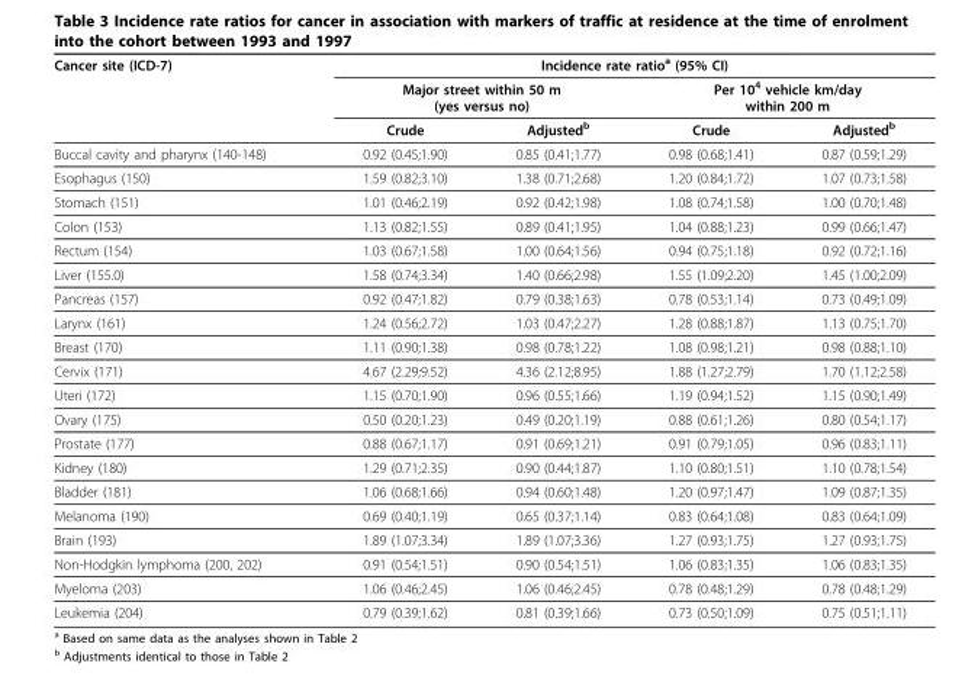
<table><thead><tr><td rowspan="3">Cancer site (ICD-7)</td><td colspan="4">Incidence rate ratio<sup>a</sup> (95% CI)</td></tr><tr><td colspan="2">Major street within 50 m (yes versus no)</td><td colspan="2">Per 10<sup>4</sup> vehicle km/day within 200 m</td></tr><tr><td>Crude</td><td>Adjusted<sup>b</sup></td><td>Crude</td><td>Adjusted<sup>b</sup></td></tr></thead><tbody><tr><td>Buccal cavity and pharynx (140-148)</td><td>0.92 (0.45;1.90)</td><td>0.85 (0.41;1.77)</td><td>0.98 (0.68;1.41)</td><td>0.87 (0.59;1.29)</td></tr><tr><td>Esophagus (150)</td><td>1.59 (0.82;3.10)</td><td>1.38 (0.71;2.68)</td><td>1.20 (0.84;1.72)</td><td>1.07 (0.73;1.58)</td></tr><tr><td>Stomach (151)</td><td>1.01 (0.46;2.19)</td><td>0.92 (0.42;1.98)</td><td>1.08 (0.74;1.58)</td><td>1.00 (0.70;1.48)</td></tr><tr><td>Colon (153)</td><td>1.13 (0.82;1.55)</td><td>0.89 (0.41;1.95)</td><td>1.04 (0.88;1.23)</td><td>0.99 (0.66;1.47)</td></tr><tr><td>Rectum (154)</td><td>1.03 (0.67;1.58)</td><td>1.00 (0.64;1.56)</td><td>0.94 (0.75;1.18)</td><td>0.92 (0.72;1.16)</td></tr><tr><td>Liver (155.0)</td><td>1.58 (0.74;3.34)</td><td>1.40 (0.66;2.98)</td><td>1.55 (1.09;2.20)</td><td>1.45 (1.00;2.09)</td></tr><tr><td>Pancreas (157)</td><td>0.92 (0.47;1.82)</td><td>0.79 (0.38;1.63)</td><td>0.78 (0.53;1.14)</td><td>0.73 (0.49;1.09)</td></tr><tr><td>Larynx (161)</td><td>1.24 (0.56;2.72)</td><td>1.03 (0.47;2.27)</td><td>1.28 (0.88;1.87)</td><td>1.13 (0.75;1.70)</td></tr><tr><td>Breast (170)</td><td>1.11 (0.90;1.38)</td><td>0.98 (0.78;1.22)</td><td>1.08 (0.98;1.21)</td><td>0.98 (0.88;1.10)</td></tr><tr><td>Cervix (171)</td><td>4.67 (2.29;9.52)</td><td>4.36 (2.12;8.95)</td><td>1.88 (1.27;2.79)</td><td>1.70 (1.12;2.58)</td></tr><tr><td>Uteri (172)</td><td>1.15 (0.70;1.90)</td><td>0.96 (0.55;1.66)</td><td>1.19 (0.94;1.52)</td><td>1.15 (0.90;1.49)</td></tr><tr><td>Ovary (175)</td><td>0.50 (0.20;1.23)</td><td>0.49 (0.20;1.19)</td><td>0.88 (0.61;1.26)</td><td>0.80 (0.54;1.17)</td></tr><tr><td>Prostate (177)</td><td>0.88 (0.67;1.17)</td><td>0.91 (0.69;1.21)</td><td>0.91 (0.79;1.05)</td><td>0.96 (0.83;1.11)</td></tr><tr><td>Kidney (180)</td><td>1.29 (0.71;2.35)</td><td>0.90 (0.44;1.87)</td><td>1.10 (0.80;1.51)</td><td>1.10 (0.78;1.54)</td></tr><tr><td>Bladder (181)</td><td>1.06 (0.68;1.66)</td><td>0.94 (0.60;1.48)</td><td>1.20 (0.97;1.47)</td><td>1.09 (0.87;1.35)</td></tr><tr><td>Melanoma (190)</td><td>0.69 (0.40;1.19)</td><td>0.65 (0.37;1.14)</td><td>0.83 (0.64;1.08)</td><td>0.83 (0.64;1.09)</td></tr><tr><td>Brain (193)</td><td>1.89 (1.07;3.34)</td><td>1.89 (1.07;3.36)</td><td>1.27 (0.93;1.75)</td><td>1.27 (0.93;1.75)</td></tr><tr><td>Non-Hodgkin lymphoma (200, 202)</td><td>0.91 (0.54;1.51)</td><td>0.90 (0.54;1.51)</td><td>1.06 (0.83;1.35)</td><td>1.06 (0.83;1.35)</td></tr><tr><td>Myeloma (203)</td><td>1.06 (0.46;2.45)</td><td>1.06 (0.46;2.45)</td><td>0.78 (0.48;1.29)</td><td>0.78 (0.48;1.29)</td></tr><tr><td>Leukemia (204)</td><td>0.79 (0.39;1.62)</td><td>0.81 (0.39;1.66)</td><td>0.73 (0.50;1.09)</td><td>0.75 (0.51;1.11)</td></tr></tbody></table>